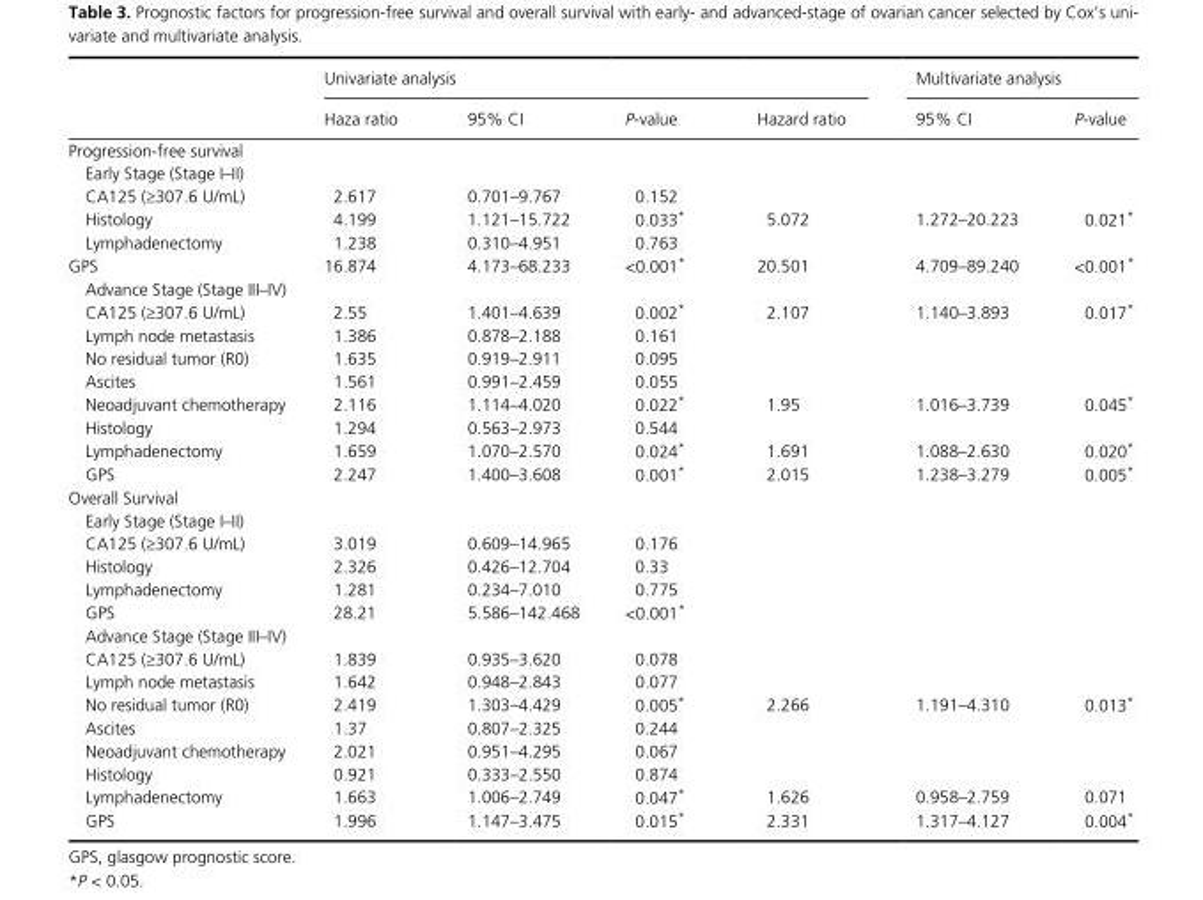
<table><thead><tr><td rowspan="2"></td><td colspan="4">Univariate analysis</td><td colspan="2">Multivariate analysis</td></tr><tr><td>Haza ratio</td><td>95% CI</td><td>P- value</td><td>Hazard ratio</td><td>95% CI</td><td>P- value</td></tr></thead><tbody><tr><td colspan="7">Progression- free survival</td></tr><tr><td colspan="7">Early Stage (Stage I–II)</td></tr><tr><td>CA125 (≥307.6 U/mL)</td><td>2.617</td><td>0.701–9.767</td><td>0.152</td><td></td><td></td><td></td></tr><tr><td>Histology</td><td>4.199</td><td>1.121–15.722</td><td>0.033*</td><td>5.072</td><td>1.272–20.223</td><td>0.021*</td></tr><tr><td>Lymphadenectomy</td><td>1.238</td><td>0.310–4.951</td><td>0.763</td><td></td><td></td><td></td></tr><tr><td>GPS</td><td>16.874</td><td>4.173–68.233</td><td>&lt;0.001*</td><td>20.501</td><td>4.709–89.240</td><td>&lt;0.001*</td></tr><tr><td colspan="7">Advance Stage (Stage III–IV)</td></tr><tr><td>CA125 (≥307.6 U/mL)</td><td>2.55</td><td>1.401–4.639</td><td>0.002*</td><td>2.107</td><td>1.140–3.893</td><td>0.017*</td></tr><tr><td>Lymph node metastasis</td><td>1.386</td><td>0.878–2.188</td><td>0.161</td><td></td><td></td><td></td></tr><tr><td>No residual tumor (R0)</td><td>1.635</td><td>0.919–2.911</td><td>0.095</td><td></td><td></td><td></td></tr><tr><td>Ascites</td><td>1.561</td><td>0.991–2.459</td><td>0.055</td><td></td><td></td><td></td></tr><tr><td>Neoadjuvant chemotherapy</td><td>2.116</td><td>1.114–4.020</td><td>0.022*</td><td>1.95</td><td>1.016–3.739</td><td>0.045*</td></tr><tr><td>Histology</td><td>1.294</td><td>0.563–2.973</td><td>0.544</td><td></td><td></td><td></td></tr><tr><td>Lymphadenectomy</td><td>1.659</td><td>1.070–2.570</td><td>0.024*</td><td>1.691</td><td>1.088–2.630</td><td>0.020*</td></tr><tr><td>GPS</td><td>2.247</td><td>1.400–3.608</td><td>0.001*</td><td>2.015</td><td>1.238–3.279</td><td>0.005*</td></tr><tr><td colspan="7">Overall Survival</td></tr><tr><td colspan="7">Early Stage (Stage I–II)</td></tr><tr><td>CA125 (≥307.6 U/mL)</td><td>3.019</td><td>0.609–14.965</td><td>0.176</td><td></td><td></td><td></td></tr><tr><td>Histology</td><td>2.326</td><td>0.426–12.704</td><td>0.33</td><td></td><td></td><td></td></tr><tr><td>Lymphadenectomy</td><td>1.281</td><td>0.234–7.010</td><td>0.775</td><td></td><td></td><td></td></tr><tr><td>GPS</td><td>28.21</td><td>5.586–142.468</td><td>&lt;0.001*</td><td></td><td></td><td></td></tr><tr><td colspan="7">Advance Stage (Stage III–IV)</td></tr><tr><td>CA125 (≥307.6 U/mL)</td><td>1.839</td><td>0.935–3.620</td><td>0.078</td><td></td><td></td><td></td></tr><tr><td>Lymph node metastasis</td><td>1.642</td><td>0.948–2.843</td><td>0.077</td><td></td><td></td><td></td></tr><tr><td>No residual tumor (R0)</td><td>2.419</td><td>1.303–4.429</td><td>0.005*</td><td>2.266</td><td>1.191–4.310</td><td>0.013*</td></tr><tr><td>Ascites</td><td>1.37</td><td>0.807–2.325</td><td>0.244</td><td></td><td></td><td></td></tr><tr><td>Neoadjuvant chemotherapy</td><td>2.021</td><td>0.951–4.295</td><td>0.067</td><td></td><td></td><td></td></tr><tr><td>Histology</td><td>0.921</td><td>0.333–2.550</td><td>0.874</td><td></td><td></td><td></td></tr><tr><td>Lymphadenectomy</td><td>1.663</td><td>1.006–2.749</td><td>0.047*</td><td>1.626</td><td>0.958–2.759</td><td>0.071</td></tr><tr><td>GPS</td><td>1.996</td><td>1.147–3.475</td><td>0.015*</td><td>2.331</td><td>1.317–4.127</td><td>0.004*</td></tr></tbody></table>